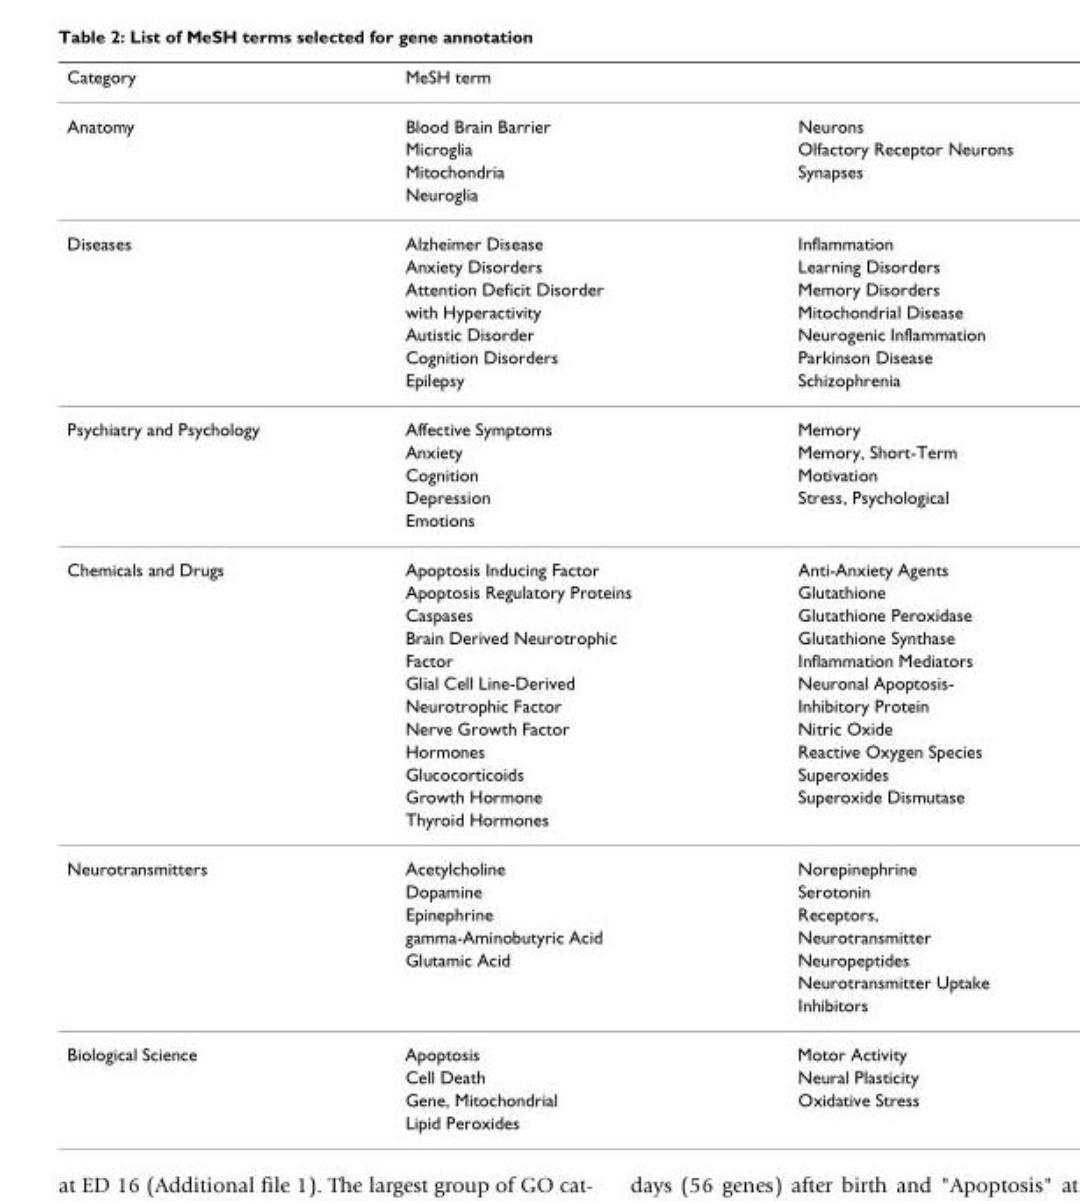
<table><thead><tr><td>Category</td><td>MeSH term</td><td></td></tr></thead><tbody><tr><td rowspan="4">Anatomy</td><td>Blood Brain Barrier</td><td>Neurons</td></tr><tr><td>Microglia</td><td>Olfactory Receptor Neurons</td></tr><tr><td>Mitochondria</td><td>Synapses</td></tr><tr><td>Neuroglia</td><td></td></tr><tr><td rowspan="7">Diseases</td><td>Alzheimer Disease</td><td>Inflammation</td></tr><tr><td>Anxiety Disorders</td><td>Learning Disorders</td></tr><tr><td>Attention Deficit Disorder</td><td>Memory Disorders</td></tr><tr><td>with Hyperactivity</td><td>Mitochondrial Disease</td></tr><tr><td>Autistic Disorder</td><td>Neurogenic Inflammation</td></tr><tr><td>Cognition Disorders</td><td>Parkinson Disease</td></tr><tr><td>Epilepsy</td><td>Schizophrenia</td></tr><tr><td rowspan="5">Psychiatry and Psychology</td><td>Affective Symptoms</td><td>Memory</td></tr><tr><td>Anxiety</td><td>Memory, Short-Term</td></tr><tr><td>Cognition</td><td>Motivation</td></tr><tr><td>Depression</td><td>Stress, Psychological</td></tr><tr><td>Emotions</td><td></td></tr><tr><td rowspan="12">Chemicals and Drugs</td><td>Apoptosis Inducing Factor</td><td>Anti-Anxiety Agents</td></tr><tr><td>Apoptosis Regulatory Proteins</td><td>Glutathione</td></tr><tr><td>Caspases</td><td>Glutathione Peroxidase</td></tr><tr><td>Brain Derived Neurotrophic</td><td>Glutathione Synthase</td></tr><tr><td>Factor</td><td>Inflammation Mediators</td></tr><tr><td>Glial Cell Line-Derived</td><td>Neuronal Apoptosis-</td></tr><tr><td>Neurotrophic Factor</td><td>Inhibitory Protein</td></tr><tr><td>Nerve Growth Factor</td><td>Nitric Oxide</td></tr><tr><td>Hormones</td><td>Reactive Oxygen Species</td></tr><tr><td>Glucocorticoids</td><td>Superoxides</td></tr><tr><td>Growth Hormone</td><td>Superoxide Dismutase</td></tr><tr><td>Thyroid Hormones</td><td></td></tr><tr><td rowspan="7">Neurotransmitters</td><td>Acetylcholine</td><td>Norepinephrine</td></tr><tr><td>Dopamine</td><td>Serotonin</td></tr><tr><td>Epinephrine</td><td>Receptors,</td></tr><tr><td>gamma-Aminobutyric Acid</td><td>Neurotransmitter</td></tr><tr><td>Glutamic Acid</td><td>Neuropeptides</td></tr><tr><td></td><td>Neurotransmitter Uptake</td></tr><tr><td></td><td>Inhibitors</td></tr><tr><td rowspan="4">Biological Science</td><td>Apoptosis</td><td>Motor Activity</td></tr><tr><td>Cell Death</td><td>Neural Plasticity</td></tr><tr><td>Gene, Mitochondrial</td><td>Oxidative Stress</td></tr><tr><td>Lipid Peroxides</td><td></td></tr></tbody></table>